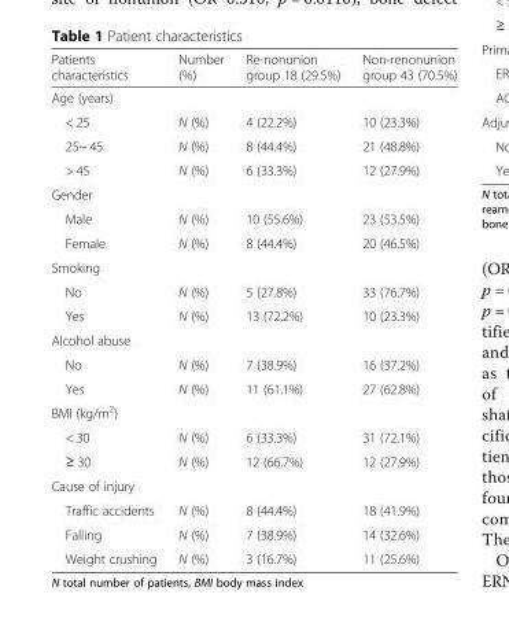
<table><thead><tr><td>Patients characteristics</td><td>Number (%)</td><td>Re-nonunion group 18 (29.5%)</td><td>Non-renonunion group 43 (70.5%)</td></tr></thead><tbody><tr><td colspan="4">Age (years)</td></tr><tr><td>&lt; 25</td><td>N (%)</td><td>4 (22.2%)</td><td>10 (23.3%)</td></tr><tr><td>25~ 45</td><td>N (%)</td><td>8 (44.4%)</td><td>21 (48.8%)</td></tr><tr><td>&gt; 45</td><td>N (%)</td><td>6 (33.3%)</td><td>12 (27.9%)</td></tr><tr><td colspan="4">Gender</td></tr><tr><td>Male</td><td>N (%)</td><td>10 (55.6%)</td><td>23 (53.5%)</td></tr><tr><td>Female</td><td>N (%)</td><td>8 (44.4%)</td><td>20 (46.5%)</td></tr><tr><td colspan="4">Smoking</td></tr><tr><td>No</td><td>N (%)</td><td>5 (27.8%)</td><td>33 (76.7%)</td></tr><tr><td>Yes</td><td>N (%)</td><td>13 (72.2%)</td><td>10 (23.3%)</td></tr><tr><td colspan="4">Alcohol abuse</td></tr><tr><td>No</td><td>N (%)</td><td>7 (38.9%)</td><td>16 (37.2%)</td></tr><tr><td>Yes</td><td>N (%)</td><td>11 (61.1%)</td><td>27 (62.8%)</td></tr><tr><td colspan="4">BMI (kg/m<sup>2</sup>)</td></tr><tr><td>&lt; 30</td><td>N (%)</td><td>6 (33.3%)</td><td>31 (72.1%)</td></tr><tr><td>≥ 30</td><td>N (%)</td><td>12 (66.7%)</td><td>12 (27.9%)</td></tr><tr><td colspan="4">Cause of injury</td></tr><tr><td>Traffic accidents</td><td>N (%)</td><td>8 (44.4%)</td><td>18 (41.9%)</td></tr><tr><td>Falling</td><td>N (%)</td><td>7 (38.9%)</td><td>14 (32.6%)</td></tr><tr><td>Weight crushing</td><td>N (%)</td><td>3 (16.7%)</td><td>11 (25.6%)</td></tr></tbody></table>